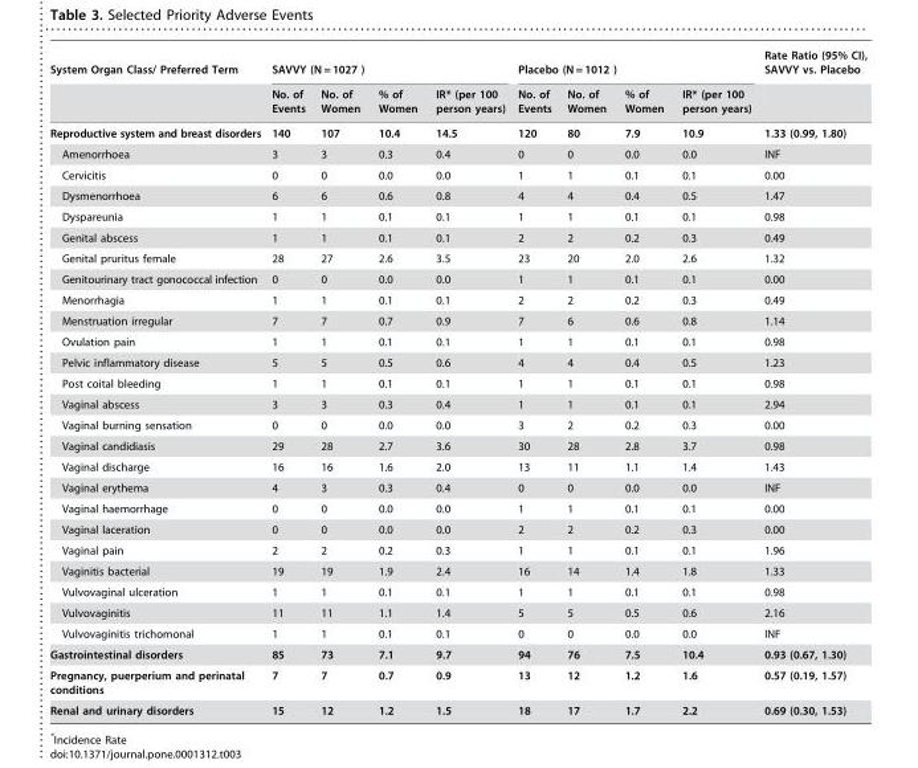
<table><thead><tr><td rowspan="2">System Organ Class/ Preferred Term</td><td colspan="4">SAVVY (N = 1027 )</td><td colspan="4">Placebo (N = 1012 )</td><td rowspan="2">Rate Ratio (95% CI), SAVVY vs. Placebo</td></tr><tr><td>No. of Events</td><td>No. of Women</td><td>% of Women</td><td>IR* (per 100 person years)</td><td>No. of Events</td><td>No. of Women</td><td>% of Women</td><td>IR* (per 100 person years)</td></tr></thead><tbody><tr><td>Reproductive system and breast disorders</td><td>140</td><td>107</td><td>10.4</td><td>14.5</td><td>120</td><td>80</td><td>7.9</td><td>10.9</td><td>1.33 (0.99, 1.80)</td></tr><tr><td>Amenorrhoea</td><td>3</td><td>3</td><td>0.3</td><td>0.4</td><td>0</td><td>0</td><td>0.0</td><td>0.0</td><td>INF</td></tr><tr><td>Cervicitis</td><td>0</td><td>0</td><td>0.0</td><td>0.0</td><td>1</td><td>1</td><td>0.1</td><td>0.1</td><td>0.00</td></tr><tr><td>Dysmenorrhoea</td><td>6</td><td>6</td><td>0.6</td><td>0.8</td><td>4</td><td>4</td><td>0.4</td><td>0.5</td><td>1.47</td></tr><tr><td>Dyspareunia</td><td>1</td><td>1</td><td>0.1</td><td>0.1</td><td>1</td><td>1</td><td>0.1</td><td>0.1</td><td>0.98</td></tr><tr><td>Genital abscess</td><td>1</td><td>1</td><td>0.1</td><td>0.1</td><td>2</td><td>2</td><td>0.2</td><td>0.3</td><td>0.49</td></tr><tr><td>Genital pruritus female</td><td>28</td><td>27</td><td>2.6</td><td>3.5</td><td>23</td><td>20</td><td>2.0</td><td>2.6</td><td>1.32</td></tr><tr><td>Genitourinary tract gonococcal infection</td><td>0</td><td>0</td><td>0.0</td><td>0.0</td><td>1</td><td>1</td><td>0.1</td><td>0.1</td><td>0.00</td></tr><tr><td>Menorrhagia</td><td>1</td><td>1</td><td>0.1</td><td>0.1</td><td>2</td><td>2</td><td>0.2</td><td>0.3</td><td>0.49</td></tr><tr><td>Menstruation irregular</td><td>7</td><td>7</td><td>0.7</td><td>0.9</td><td>7</td><td>6</td><td>0.6</td><td>0.8</td><td>1.14</td></tr><tr><td>Ovulation pain</td><td>1</td><td>1</td><td>0.1</td><td>0.1</td><td>1</td><td>1</td><td>0.1</td><td>0.1</td><td>0.98</td></tr><tr><td>Pelvic inflammatory disease</td><td>5</td><td>5</td><td>0.5</td><td>0.6</td><td>4</td><td>4</td><td>0.4</td><td>0.5</td><td>1.23</td></tr><tr><td>Post coital bleeding</td><td>1</td><td>1</td><td>0.1</td><td>0.1</td><td>1</td><td>1</td><td>0.1</td><td>0.1</td><td>0.98</td></tr><tr><td>Vaginal abscess</td><td>3</td><td>3</td><td>0.3</td><td>0.4</td><td>1</td><td>1</td><td>0.1</td><td>0.1</td><td>2.94</td></tr><tr><td>Vaginal burning sensation</td><td>0</td><td>0</td><td>0.0</td><td>0.0</td><td>3</td><td>2</td><td>0.2</td><td>0.3</td><td>0.00</td></tr><tr><td>Vaginal candidiasis</td><td>29</td><td>28</td><td>2.7</td><td>3.6</td><td>30</td><td>28</td><td>2.8</td><td>3.7</td><td>0.98</td></tr><tr><td>Vaginal discharge</td><td>16</td><td>16</td><td>1.6</td><td>2.0</td><td>13</td><td>11</td><td>1.1</td><td>1.4</td><td>1.43</td></tr><tr><td>Vaginal erythema</td><td>4</td><td>3</td><td>0.3</td><td>0.4</td><td>0</td><td>0</td><td>0.0</td><td>0.0</td><td>INF</td></tr><tr><td>Vaginal haemorrhage</td><td>0</td><td>0</td><td>0.0</td><td>0.0</td><td>1</td><td>1</td><td>0.1</td><td>0.1</td><td>0.00</td></tr><tr><td>Vaginal laceration</td><td>0</td><td>0</td><td>0.0</td><td>0.0</td><td>2</td><td>2</td><td>0.2</td><td>0.3</td><td>0.00</td></tr><tr><td>Vaginal pain</td><td>2</td><td>2</td><td>0.2</td><td>0.3</td><td>1</td><td>1</td><td>0.1</td><td>0.1</td><td>1.96</td></tr><tr><td>Vaginitis bacterial</td><td>19</td><td>19</td><td>1.9</td><td>2.4</td><td>16</td><td>14</td><td>1.4</td><td>1.8</td><td>1.33</td></tr><tr><td>Vulvovaginal ulceration</td><td>1</td><td>1</td><td>0.1</td><td>0.1</td><td>1</td><td>1</td><td>0.1</td><td>0.1</td><td>0.98</td></tr><tr><td>Vulvovaginitis</td><td>11</td><td>11</td><td>1.1</td><td>1.4</td><td>5</td><td>5</td><td>0.5</td><td>0.6</td><td>2.16</td></tr><tr><td>Vulvovaginitis trichomonal</td><td>1</td><td>1</td><td>0.1</td><td>0.1</td><td>0</td><td>0</td><td>0.0</td><td>0.0</td><td>INF</td></tr><tr><td>Gastrointestinal disorders</td><td>85</td><td>73</td><td>7.1</td><td>9.7</td><td>94</td><td>76</td><td>7.5</td><td>10.4</td><td>0.93 (0.67, 1.30)</td></tr><tr><td>Pregnancy, puerperium and perinatal conditions</td><td>7</td><td>7</td><td>0.7</td><td>0.9</td><td>13</td><td>12</td><td>1.2</td><td>1.6</td><td>0.57 (0.19, 1.57)</td></tr><tr><td>Renal and urinary disorders</td><td>15</td><td>12</td><td>1.2</td><td>1.5</td><td>18</td><td>17</td><td>1.7</td><td>2.2</td><td>0.69 (0.30, 1.53)</td></tr></tbody></table>